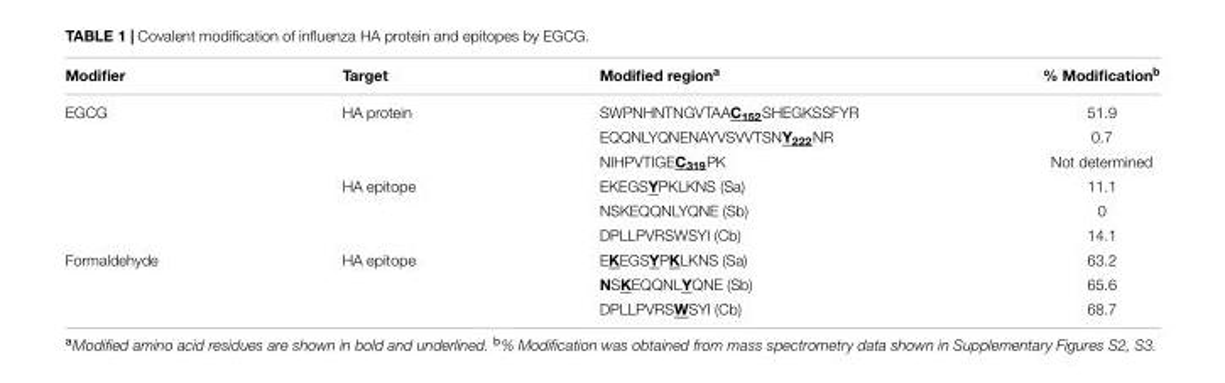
<table><thead><tr><td>Modifier</td><td>Target</td><td>Modified region<sup>a</sup></td><td>% Modification<sup>b</sup></td></tr></thead><tbody><tr><td rowspan="6">EGCG</td><td>HA protein</td><td>SWPNHNTNGVTAAC<sub>152</sub>SHEGKSSFYR</td><td>51.9</td></tr><tr><td></td><td>EQQNLYQNENAYVSVVTSNY<sub>222</sub>NR</td><td>0.7</td></tr><tr><td></td><td>NIHPVTIGEC<sub>319</sub>PK</td><td>Not determined</td></tr><tr><td>HA epitope</td><td>EKEGSYPKLKNS (Sa)</td><td>11.1</td></tr><tr><td></td><td>NSKEQQNLYQNE (Sb)</td><td>0</td></tr><tr><td></td><td>DPLLPVRSWSYI (Cb)</td><td>14.1</td></tr><tr><td rowspan="3">Formaldehyde</td><td>HA epitope</td><td>EKEGSYPKLKNS (Sa)</td><td>63.2</td></tr><tr><td></td><td>NSKEQQNLYQNE (Sb)</td><td>65.6</td></tr><tr><td></td><td>DPLLPVRSWSYI (Cb)</td><td>68.7</td></tr></tbody></table>